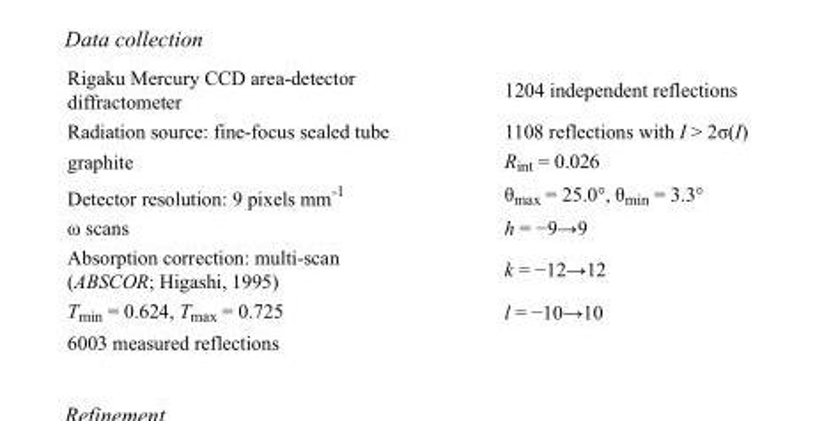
<table><tbody><tr><td>Rigaku Mercury CCD area-detector diffractometer</td><td>1204 independent reflections</td></tr><tr><td>Radiation source: fine-focus sealed tube</td><td>1108 reflections with I &gt; 2σ(I)</td></tr><tr><td>graphite</td><td>R<sub>int</sub> = 0.026</td></tr><tr><td>Detector resolution: 9 pixels mm<sup>-1</sup></td><td>θ<sub>max</sub> = 25.0°, θ<sub>min</sub> = 3.3°</td></tr><tr><td>ω scans</td><td>h = −9→9</td></tr><tr><td>Absorption correction: multi-scan (ABSCOR; Higashi, 1995)</td><td>k = −12→12</td></tr><tr><td>T<sub>min</sub> = 0.624, T<sub>max</sub> = 0.725</td><td>l = −10→10</td></tr><tr><td>6003 measured reflections</td><td></td></tr></tbody></table>